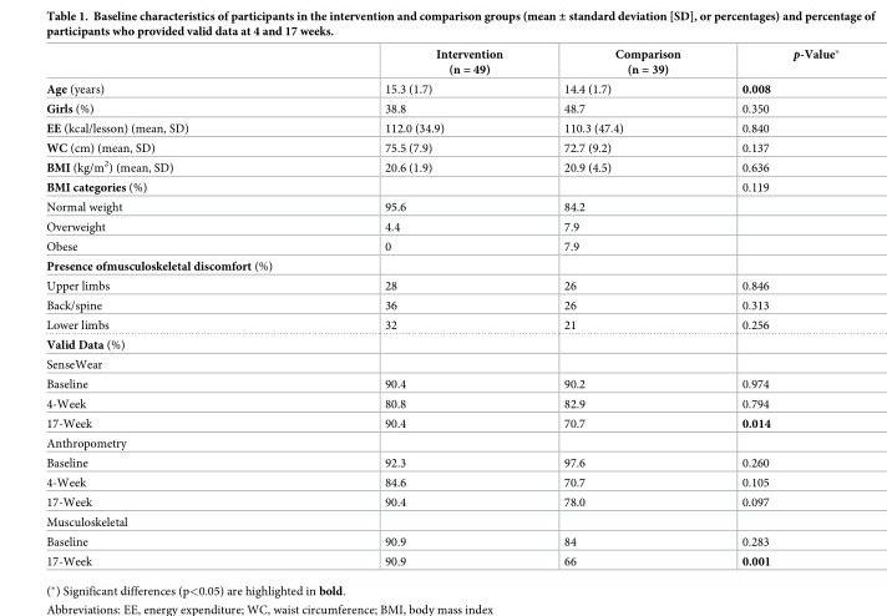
<table><thead><tr><td></td><td>Intervention (n = 49)</td><td>Comparison (n = 39)</td><td>p-Value*</td></tr></thead><tbody><tr><td>Age (years)</td><td>15.3 (1.7)</td><td>14.4 (1.7)</td><td>0.008</td></tr><tr><td>Girls (%)</td><td>38.8</td><td>48.7</td><td>0.350</td></tr><tr><td>EE (kcal/lesson) (mean, SD)</td><td>112.0 (34.9)</td><td>110.3 (47.4)</td><td>0.840</td></tr><tr><td>WC (cm) (mean, SD)</td><td>75.5 (7.9)</td><td>72.7 (9.2)</td><td>0.137</td></tr><tr><td>BMI (kg/m<sup>2</sup>) (mean, SD)</td><td>20.6 (1.9)</td><td>20.9 (4.5)</td><td>0.636</td></tr><tr><td>BMI categories (%)</td><td></td><td></td><td>0.119</td></tr><tr><td>Normal weight</td><td>95.6</td><td>84.2</td><td></td></tr><tr><td>Overweight</td><td>4.4</td><td>7.9</td><td></td></tr><tr><td>Obese</td><td>0</td><td>7.9</td><td></td></tr><tr><td colspan="4">Presence ofmusculoskeletal discomfort (%)</td></tr><tr><td>Upper limbs</td><td>28</td><td>26</td><td>0.846</td></tr><tr><td>Back/spine</td><td>36</td><td>26</td><td>0.313</td></tr><tr><td>Lower limbs</td><td>32</td><td>21</td><td>0.256</td></tr><tr><td colspan="4">Valid Data (%)</td></tr><tr><td colspan="4">SenseWear</td></tr><tr><td>Baseline</td><td>90.4</td><td>90.2</td><td>0.974</td></tr><tr><td>4-Week</td><td>80.8</td><td>82.9</td><td>0.794</td></tr><tr><td>17-Week</td><td>90.4</td><td>70.7</td><td>0.014</td></tr><tr><td colspan="4">Anthropometry</td></tr><tr><td>Baseline</td><td>92.3</td><td>97.6</td><td>0.260</td></tr><tr><td>4-Week</td><td>84.6</td><td>70.7</td><td>0.105</td></tr><tr><td>17-Week</td><td>90.4</td><td>78.0</td><td>0.097</td></tr><tr><td colspan="4">Musculoskeletal</td></tr><tr><td>Baseline</td><td>90.9</td><td>84</td><td>0.283</td></tr><tr><td>17-Week</td><td>90.9</td><td>66</td><td>0.001</td></tr></tbody></table>